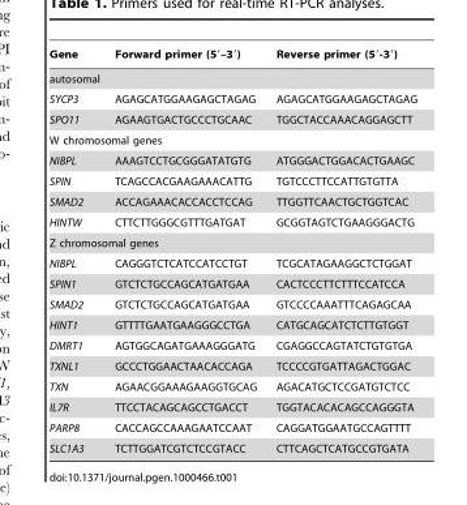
<table><thead><tr><td>Gene</td><td>Forward primer (5′–3′)</td><td>Reverse primer (5′-3′)</td></tr></thead><tbody><tr><td colspan="3">autosomal</td></tr><tr><td>SYCP3</td><td>AGAGCATGGAAGAGCTAGAG</td><td>AGAGCATGGAAGAGCTAGAG</td></tr><tr><td>SPO11</td><td>AGAAGTGACTGCCCTGCAAC</td><td>TGGCTACCAAACAGGAGCTT</td></tr><tr><td colspan="3">W chromosomal genes</td></tr><tr><td>NIBPL</td><td>AAAGTCCTGCGGGATATGTG</td><td>ATGGGACTGGACACTGAAGC</td></tr><tr><td>SPIN</td><td>TCAGCCACGAAGAAACATTG</td><td>TGTCCCTTCCATTGTGTTA</td></tr><tr><td>SMAD2</td><td>ACCAGAAACACCACCTCCAG</td><td>TTGGTTCAACTGCTGGTCAC</td></tr><tr><td>HINTW</td><td>CTTCTTGGGCGTTTGATGAT</td><td>GCGGTAGTCTGAAGGGACTG</td></tr><tr><td colspan="3">Z chromosomal genes</td></tr><tr><td>NIBPL</td><td>CAGGGTCTCATCCATCCTGT</td><td>TCGCATAGAAGGCTCTGGAT</td></tr><tr><td>SPIN1</td><td>GTCTCTGCCAGCATGATGAA</td><td>CACTCCCTTCTTTCCATCCA</td></tr><tr><td>SMAD2</td><td>GTCTCTGCCAGCATGATGAA</td><td>GTCCCCAAATTTCAGAGCAA</td></tr><tr><td>HINT1</td><td>GTTTTGAATGAAGGGCCTGA</td><td>CATGCAGCATCTCTTGTGGT</td></tr><tr><td>DMRT1</td><td>AGTGGCAGATGAAAGGGATG</td><td>CGAGGCCAGTATCTGTGTGA</td></tr><tr><td>TXNL1</td><td>GCCCTGGAACTAACACCAGA</td><td>TCCCCGTGATTAGACTGGAC</td></tr><tr><td>TXN</td><td>AGAACGGAAAGAAGGTGCAG</td><td>AGACATGCTCCGATGTCTCC</td></tr><tr><td>IL7R</td><td>TTCCTACAGCAGCCTGACCT</td><td>TGGTACACACAGCCAGGGTA</td></tr><tr><td>PARP8</td><td>CACCAGCCAAAGAATCCAAT</td><td>CAGGATGGAATGCCAGTTTT</td></tr><tr><td>SLC1A3</td><td>TCTTGGATCGTCTCCGTACC</td><td>CTTCAGCTCATGCCGTGATA</td></tr></tbody></table>